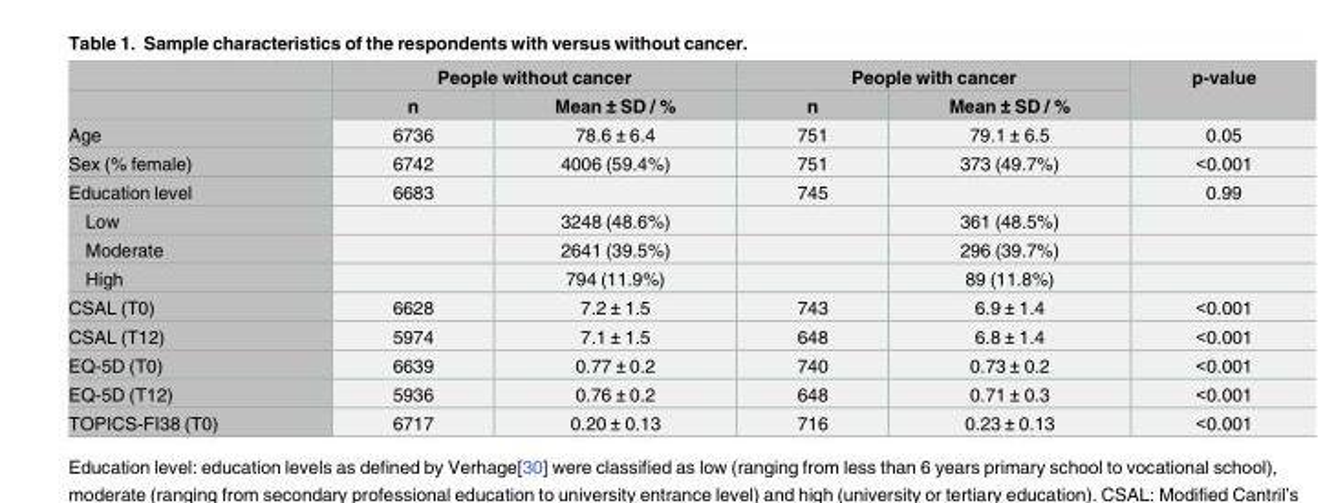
<table><thead><tr><td rowspan="2"></td><td colspan="2">People without cancer</td><td colspan="2">People with cancer</td><td rowspan="2">p-value</td></tr><tr><td>n</td><td>Mean ± SD / %</td><td>n</td><td>Mean ± SD / %</td></tr></thead><tbody><tr><td>Age</td><td>6736</td><td>78.6 ± 6.4</td><td>751</td><td>79.1 ± 6.5</td><td>0.05</td></tr><tr><td>Sex (% female)</td><td>6742</td><td>4006 (59.4%)</td><td>751</td><td>373 (49.7%)</td><td>&lt;0.001</td></tr><tr><td>Education level</td><td>6683</td><td></td><td>745</td><td></td><td>0.99</td></tr><tr><td>Low</td><td></td><td>3248 (48.6%)</td><td></td><td>361 (48.5%)</td><td></td></tr><tr><td>Moderate</td><td></td><td>2641 (39.5%)</td><td></td><td>296 (39.7%)</td><td></td></tr><tr><td>High</td><td></td><td>794 (11.9%)</td><td></td><td>89 (11.8%)</td><td></td></tr><tr><td>CSAL (T0)</td><td>6628</td><td>7.2 ± 1.5</td><td>743</td><td>6.9 ± 1.4</td><td>&lt;0.001</td></tr><tr><td>CSAL (T12)</td><td>5974</td><td>7.1 ± 1.5</td><td>648</td><td>6.8 ± 1.4</td><td>&lt;0.001</td></tr><tr><td>EQ-5D (T0)</td><td>6639</td><td>0.77 ± 0.2</td><td>740</td><td>0.73 ± 0.2</td><td>&lt;0.001</td></tr><tr><td>EQ-5D (T12)</td><td>5936</td><td>0.76 ± 0.2</td><td>648</td><td>0.71 ± 0.3</td><td>&lt;0.001</td></tr><tr><td>TOPICS-FI38 (T0)</td><td>6717</td><td>0.20 ± 0.13</td><td>716</td><td>0.23 ± 0.13</td><td>&lt;0.001</td></tr></tbody></table>